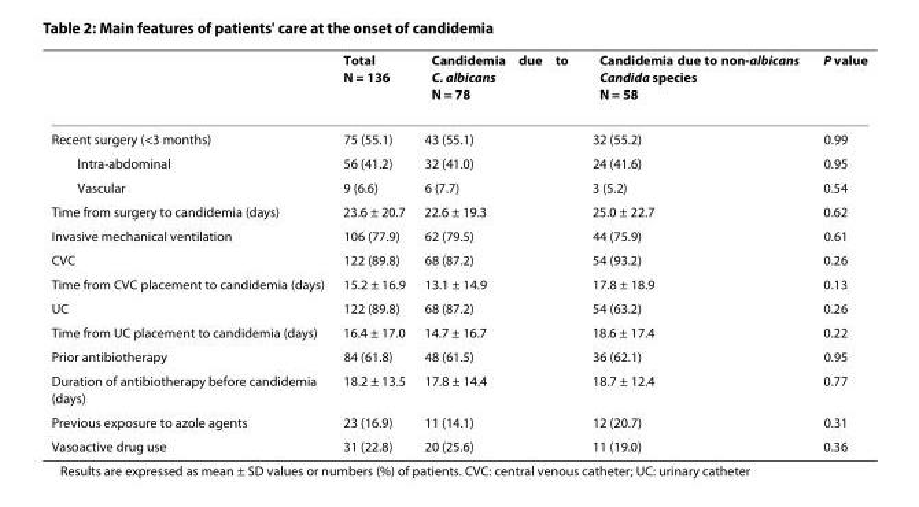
<table><thead><tr><td></td><td>Total N = 136</td><td>Candidemia due to C. albicans N = 78</td><td>Candidemia due to non-albicans Candida species N = 58</td><td>P value</td></tr></thead><tbody><tr><td>Recent surgery (&lt;3 months)</td><td>75 (55.1)</td><td>43 (55.1)</td><td>32 (55.2)</td><td>0.99</td></tr><tr><td>Intra-abdominal</td><td>56 (41.2)</td><td>32 (41.0)</td><td>24 (41.6)</td><td>0.95</td></tr><tr><td>Vascular</td><td>9 (6.6)</td><td>6 (7.7)</td><td>3 (5.2)</td><td>0.54</td></tr><tr><td>Time from surgery to candidemia (days)</td><td>23.6 ± 20.7</td><td>22.6 ± 19.3</td><td>25.0 ± 22.7</td><td>0.62</td></tr><tr><td>Invasive mechanical ventilation</td><td>106 (77.9)</td><td>62 (79.5)</td><td>44 (75.9)</td><td>0.61</td></tr><tr><td>CVC</td><td>122 (89.8)</td><td>68 (87.2)</td><td>54 (93.2)</td><td>0.26</td></tr><tr><td>Time from CVC placement to candidemia (days)</td><td>15.2 ± 16.9</td><td>13.1 ± 14.9</td><td>17.8 ± 18.9</td><td>0.13</td></tr><tr><td>UC</td><td>122 (89.8)</td><td>68 (87.2)</td><td>54 (63.2)</td><td>0.26</td></tr><tr><td>Time from UC placement to candidemia (days)</td><td>16.4 ± 17.0</td><td>14.7 ± 16.7</td><td>18.6 ± 17.4</td><td>0.22</td></tr><tr><td>Prior antibiotherapy</td><td>84 (61.8)</td><td>48 (61.5)</td><td>36 (62.1)</td><td>0.95</td></tr><tr><td>Duration of antibiotherapy before candidemia (days)</td><td>18.2 ± 13.5</td><td>17.8 ± 14.4</td><td>18.7 ± 12.4</td><td>0.77</td></tr><tr><td>Previous exposure to azole agents</td><td>23 (16.9)</td><td>11 (14.1)</td><td>12 (20.7)</td><td>0.31</td></tr><tr><td>Vasoactive drug use</td><td>31 (22.8)</td><td>20 (25.6)</td><td>11 (19.0)</td><td>0.36</td></tr></tbody></table>